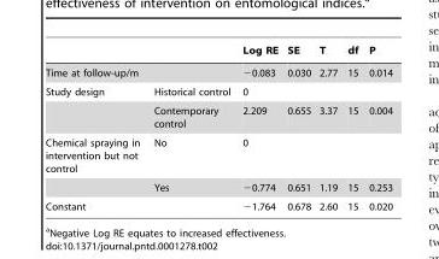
<table><thead><tr><td></td><td></td><td>Log RE</td><td>SE</td><td>T</td><td>df</td><td>P</td></tr></thead><tbody><tr><td>Time at follow-up/m</td><td></td><td>−0.083</td><td>0.030</td><td>2.77</td><td>15</td><td>0.014</td></tr><tr><td rowspan="2">Study design</td><td>Historical control</td><td>0</td><td></td><td></td><td></td><td></td></tr><tr><td>Contemporary control</td><td>2.209</td><td>0.655</td><td>3.37</td><td>15</td><td>0.004</td></tr><tr><td rowspan="2">Chemical spraying in intervention but not control</td><td>No</td><td>0</td><td></td><td></td><td></td><td></td></tr><tr><td>Yes</td><td>−0.774</td><td>0.651</td><td>1.19</td><td>15</td><td>0.253</td></tr><tr><td>Constant</td><td></td><td>−1.764</td><td>0.678</td><td>2.60</td><td>15</td><td>0.020</td></tr></tbody></table>